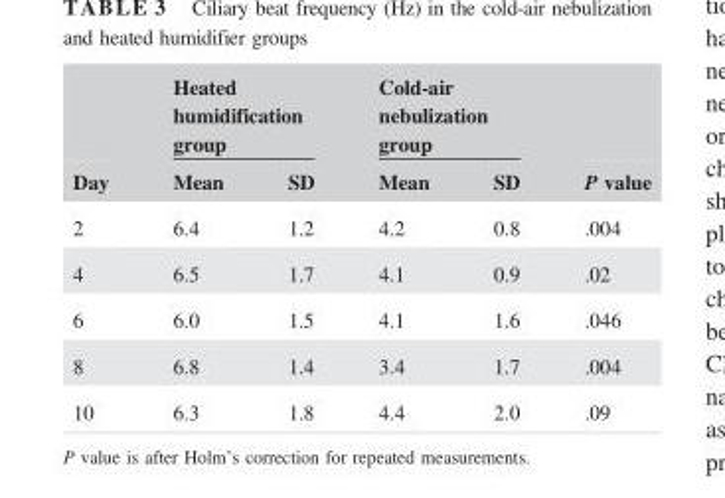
<table><thead><tr><td rowspan="2">Day</td><td colspan="2">Heated humidification group</td><td colspan="2">Cold-air nebulization group</td><td rowspan="2">P value</td></tr><tr><td>Mean</td><td>SD</td><td>Mean</td><td>SD</td></tr></thead><tbody><tr><td>2</td><td>6.4</td><td>1.2</td><td>4.2</td><td>0.8</td><td>.004</td></tr><tr><td>4</td><td>6.5</td><td>1.7</td><td>4.1</td><td>0.9</td><td>.02</td></tr><tr><td>6</td><td>6.0</td><td>1.5</td><td>4.1</td><td>1.6</td><td>.046</td></tr><tr><td>8</td><td>6.8</td><td>1.4</td><td>3.4</td><td>1.7</td><td>.004</td></tr><tr><td>10</td><td>6.3</td><td>1.8</td><td>4.4</td><td>2.0</td><td>.09</td></tr></tbody></table>